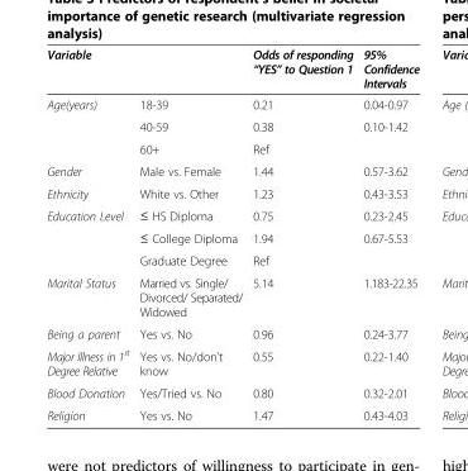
<table><thead><tr><td>Variable</td><td></td><td>Odds of responding “YES” to Question 1</td><td>95% Confidence Intervals</td></tr></thead><tbody><tr><td rowspan="3">Age(years)</td><td>18-39</td><td>0.21</td><td>0.04-0.97</td></tr><tr><td>40-59</td><td>0.38</td><td>0.10-1.42</td></tr><tr><td>60+</td><td>Ref</td><td></td></tr><tr><td>Gender</td><td>Male vs. Female</td><td>1.44</td><td>0.57-3.62</td></tr><tr><td>Ethnicity</td><td>White vs. Other</td><td>1.23</td><td>0.43-3.53</td></tr><tr><td rowspan="3">Education Level</td><td>≤ HS Diploma</td><td>0.75</td><td>0.23-2.45</td></tr><tr><td>≤ College Diploma</td><td>1.94</td><td>0.67-5.53</td></tr><tr><td>Graduate Degree</td><td>Ref</td><td></td></tr><tr><td>Marital Status</td><td>Married vs. Single/ Divorced/ Separated/ Widowed</td><td>5.14</td><td>1.183-22.35</td></tr><tr><td>Being a parent</td><td>Yes vs. No</td><td>0.96</td><td>0.24-3.77</td></tr><tr><td>Major Illness in 1<sup>st</sup> Degree Relative</td><td>Yes vs. No/don’t know</td><td>0.55</td><td>0.22-1.40</td></tr><tr><td>Blood Donation</td><td>Yes/Tried vs. No</td><td>0.80</td><td>0.32-2.01</td></tr><tr><td>Religion</td><td>Yes vs. No</td><td>1.47</td><td>0.43-4.03</td></tr></tbody></table>